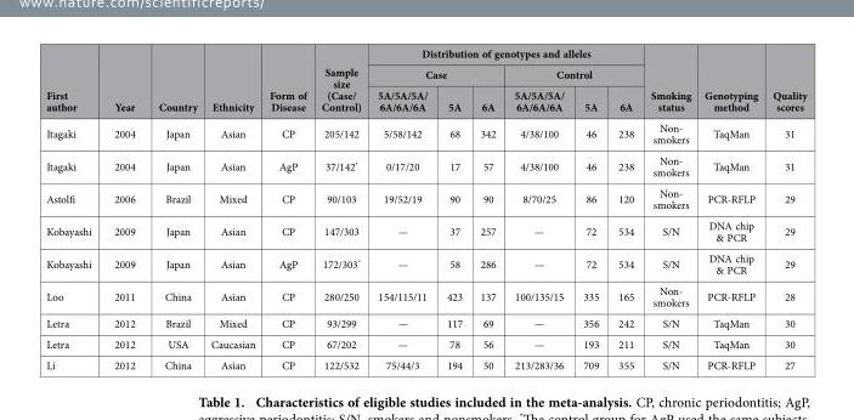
<table><thead><tr><td rowspan="3">First author</td><td rowspan="3">Year</td><td rowspan="3">Country</td><td rowspan="3">Ethnicity</td><td rowspan="3">Form of Disease</td><td rowspan="3">Sample size (Case/ Control)</td><td colspan="6">Distribution of genotypes and alleles</td><td rowspan="3">Smoking status</td><td rowspan="3">Genotyping method</td><td rowspan="3">Quality scores</td></tr><tr><td colspan="3">Case</td><td colspan="3">Control</td></tr><tr><td>5A/5A/5A/ 6A/6A/6A</td><td>5A</td><td>6A</td><td>5A/5A/5A/ 6A/6A/6A</td><td>5A</td><td>6A</td></tr></thead><tbody><tr><td>Itagaki</td><td>2004</td><td>Japan</td><td>Asian</td><td>CP</td><td>205/142</td><td>5/58/142</td><td>68</td><td>342</td><td>4/38/100</td><td>46</td><td>238</td><td>Non- smokers</td><td>TaqMan</td><td>31</td></tr><tr><td>Itagaki</td><td>2004</td><td>Japan</td><td>Asian</td><td>AgP</td><td>37/142*</td><td>0/17/20</td><td>17</td><td>57</td><td>4/38/100</td><td>46</td><td>238</td><td>Non- smokers</td><td>TaqMan</td><td>31</td></tr><tr><td>Astolfi</td><td>2006</td><td>Brazil</td><td>Mixed</td><td>CP</td><td>90/103</td><td>19/52/19</td><td>90</td><td>90</td><td>8/70/25</td><td>86</td><td>120</td><td>Non- smokers</td><td>PCR-RFLP</td><td>29</td></tr><tr><td>Kobayashi</td><td>2009</td><td>Japan</td><td>Asian</td><td>CP</td><td>147/303</td><td>—</td><td>37</td><td>257</td><td>—</td><td>72</td><td>534</td><td>S/N</td><td>DNA chip &amp; PCR</td><td>29</td></tr><tr><td>Kobayashi</td><td>2009</td><td>Japan</td><td>Asian</td><td>AgP</td><td>172/303*</td><td>—</td><td>58</td><td>286</td><td>—</td><td>72</td><td>534</td><td>S/N</td><td>DNA chip &amp; PCR</td><td>29</td></tr><tr><td>Loo</td><td>2011</td><td>China</td><td>Asian</td><td>CP</td><td>280/250</td><td>154/115/11</td><td>423</td><td>137</td><td>100/135/15</td><td>335</td><td>165</td><td>Non- smokers</td><td>PCR-RFLP</td><td>28</td></tr><tr><td>Letra</td><td>2012</td><td>Brazil</td><td>Mixed</td><td>CP</td><td>93/299</td><td>—</td><td>117</td><td>69</td><td>—</td><td>356</td><td>242</td><td>S/N</td><td>TaqMan</td><td>30</td></tr><tr><td>Letra</td><td>2012</td><td>USA</td><td>Caucasian</td><td>CP</td><td>67/202</td><td>—</td><td>78</td><td>56</td><td>—</td><td>193</td><td>211</td><td>S/N</td><td>TaqMan</td><td>30</td></tr><tr><td>Li</td><td>2012</td><td>China</td><td>Asian</td><td>CP</td><td>122/532</td><td>75/44/3</td><td>194</td><td>50</td><td>213/283/36</td><td>709</td><td>355</td><td>S/N</td><td>PCR-RFLP</td><td>27</td></tr></tbody></table>